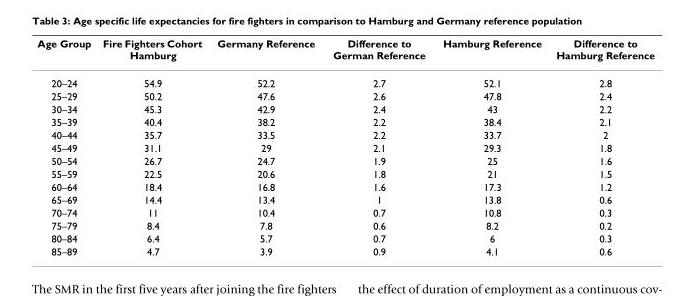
<table><thead><tr><td>Age Group</td><td>Fire Fighters Cohort Hamburg</td><td>Germany Reference</td><td>Difference to German Reference</td><td>Hamburg Reference</td><td>Difference to Hamburg Reference</td></tr></thead><tbody><tr><td>20–24</td><td>54.9</td><td>52.2</td><td>2.7</td><td>52.1</td><td>2.8</td></tr><tr><td>25–29</td><td>50.2</td><td>47.6</td><td>2.6</td><td>47.8</td><td>2.4</td></tr><tr><td>30–34</td><td>45.3</td><td>42.9</td><td>2.4</td><td>43</td><td>2.2</td></tr><tr><td>35–39</td><td>40.4</td><td>38.2</td><td>2.2</td><td>38.4</td><td>2.1</td></tr><tr><td>40–44</td><td>35.7</td><td>33.5</td><td>2.2</td><td>33.7</td><td>2</td></tr><tr><td>45–49</td><td>31.1</td><td>29</td><td>2.1</td><td>29.3</td><td>1.8</td></tr><tr><td>50–54</td><td>26.7</td><td>24.7</td><td>1.9</td><td>25</td><td>1.6</td></tr><tr><td>55–59</td><td>22.5</td><td>20.6</td><td>1.8</td><td>21</td><td>1.5</td></tr><tr><td>60–64</td><td>18.4</td><td>16.8</td><td>1.6</td><td>17.3</td><td>1.2</td></tr><tr><td>65–69</td><td>14.4</td><td>13.4</td><td>1</td><td>13.8</td><td>0.6</td></tr><tr><td>70–74</td><td>11</td><td>10.4</td><td>0.7</td><td>10.8</td><td>0.3</td></tr><tr><td>75–79</td><td>8.4</td><td>7.8</td><td>0.6</td><td>8.2</td><td>0.2</td></tr><tr><td>80–84</td><td>6.4</td><td>5.7</td><td>0.7</td><td>6</td><td>0.3</td></tr><tr><td>85–89</td><td>4.7</td><td>3.9</td><td>0.9</td><td>4.1</td><td>0.6</td></tr></tbody></table>